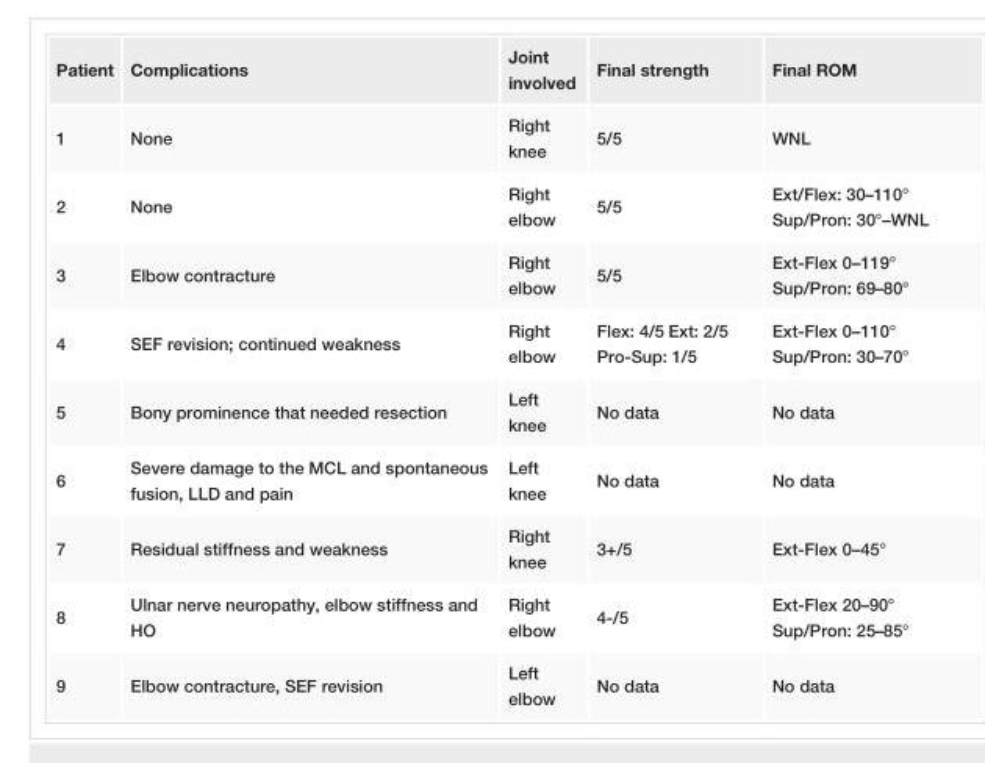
<table><tbody><tr><td>Patient</td><td>Complications</td><td>Joint involved</td><td>Final strength</td><td>Final ROM</td></tr><tr><td>1</td><td>None</td><td>Right knee</td><td>5/5</td><td>WNL</td></tr><tr><td>2</td><td>None</td><td>Right elbow</td><td>5/5</td><td>Ext/Flex: 30–110° Sup/Pron: 30°–WNL</td></tr><tr><td>3</td><td>Elbow contracture</td><td>Right elbow</td><td>5/5</td><td>Ext-Flex 0–119° Sup/Pron: 69–80°</td></tr><tr><td>4</td><td>SEF revision; continued weakness</td><td>Right elbow</td><td>Flex: 4/5 Ext: 2/5 Pro-Sup: 1/5</td><td>Ext-Flex 0–110° Sup/Pron: 30–70°</td></tr><tr><td>5</td><td>Bony prominence that needed resection</td><td>Left knee</td><td>No data</td><td>No data</td></tr><tr><td>6</td><td>Severe damage to the MCL and spontaneous fusion, LLD and pain</td><td>Left knee</td><td>No data</td><td>No data</td></tr><tr><td>7</td><td>Residual stiffness and weakness</td><td>Right knee</td><td>3+/5</td><td>Ext-Flex 0–45°</td></tr><tr><td>8</td><td>Ulnar nerve neuropathy, elbow stiffness and HO</td><td>Right elbow</td><td>4-/5</td><td>Ext-Flex 20–90° Sup/Pron: 25–85°</td></tr><tr><td>9</td><td>Elbow contracture, SEF revision</td><td>Left elbow</td><td>No data</td><td>No data</td></tr></tbody></table>